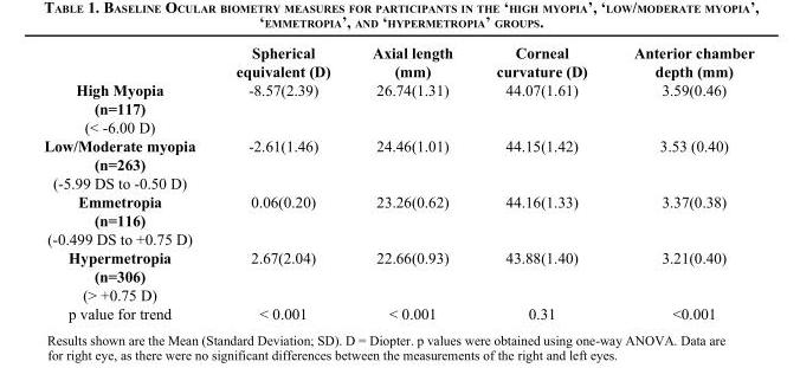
<table><thead><tr><td></td><td>Spherical equivalent (D)</td><td>Axial length (mm)</td><td>Corneal curvature (D)</td><td>Anterior chamber depth (mm)</td></tr></thead><tbody><tr><td>High Myopia (n=117) (&lt; -6.00 D)</td><td>-8.57(2.39)</td><td>26.74(1.31)</td><td>44.07(1.61)</td><td>3.59(0.46)</td></tr><tr><td>Low/Moderate myopia (n=263) (-5.99 DS to -0.50 D)</td><td>-2.61(1.46)</td><td>24.46(1.01)</td><td>44.15(1.42)</td><td>3.53 (0.40)</td></tr><tr><td>Emmetropia (n=116) (-0.499 DS to +0.75 D)</td><td>0.06(0.20)</td><td>23.26(0.62)</td><td>44.16(1.33)</td><td>3.37(0.38)</td></tr><tr><td>Hypermetropia (n=306) (&gt; +0.75 D)</td><td>2.67(2.04)</td><td>22.66(0.93)</td><td>43.88(1.40)</td><td>3.21(0.40)</td></tr><tr><td>p value for trend</td><td>&lt; 0.001</td><td>&lt; 0.001</td><td>0.31</td><td>&lt;0.001</td></tr></tbody></table>